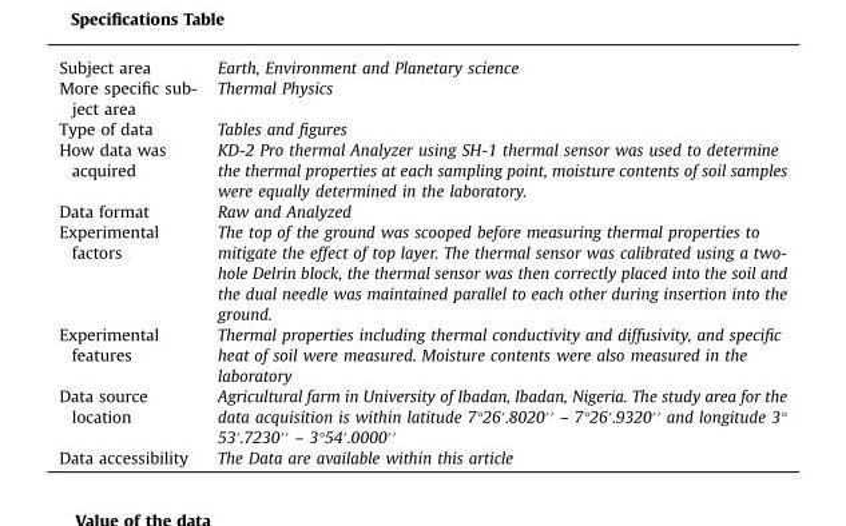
<table><tbody><tr><td>Subject area</td><td>Earth, Environment and Planetary science</td></tr><tr><td>More specific sub- ject area</td><td>Thermal Physics</td></tr><tr><td>Type of data</td><td>Tables and figures</td></tr><tr><td>How data was acquired</td><td>KD-2 Pro thermal Analyzer using SH-1 thermal sensor was used to determine the thermal properties at each sampling point, moisture contents of soil samples were equally determined in the laboratory.</td></tr><tr><td>Data format</td><td>Raw and Analyzed</td></tr><tr><td>Experimental factors</td><td>The top of the ground was scooped before measuring thermal properties to mitigate the effect of top layer. The thermal sensor was calibrated using a two- hole Delrin block, the thermal sensor was then correctly placed into the soil and the dual needle was maintained parallel to each other during insertion into the ground.</td></tr><tr><td>Experimental features</td><td>Thermal properties including thermal conductivity and diffusivity, and specific heat of soil were measured. Moisture contents were also measured in the laboratory</td></tr><tr><td>Data source location</td><td>Agricultural farm in University of Ibadan, Ibadan, Nigeria. The study area for the data acquisition is within latitude 7°26′.8020′′ – 7°26′.9320′′ and longitude 3° 53′.7230′′ – 3°54′.0000′′</td></tr><tr><td>Data accessibility</td><td>The Data are available within this article</td></tr></tbody></table>